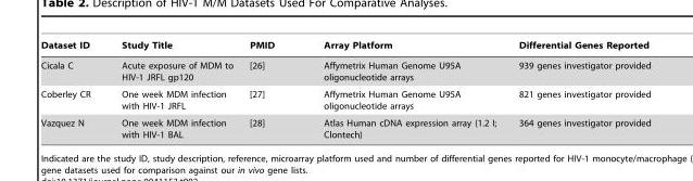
<table><thead><tr><td>Dataset ID</td><td>Study Title</td><td>PMID</td><td>Array Platform</td><td>Differential Genes Reported</td></tr></thead><tbody><tr><td>Cicala C</td><td>Acute exposure of MDM to HIV-1 JRFL gp120</td><td>[26]</td><td>Affymetrix Human Genome U95A oligonucleotide arrays</td><td>939 genes investigator provided</td></tr><tr><td>Coberley CR</td><td>One week MDM infection with HIV-1 JRFL</td><td>[27]</td><td>Affymetrix Human Genome U95A oligonucleotide arrays</td><td>821 genes investigator provided</td></tr><tr><td>Vazquez N</td><td>One week MDM infection with HIV-1 BAL</td><td>[28]</td><td>Atlas Human cDNA expression array (1.2 I; Clontech)</td><td>364 genes investigator provided</td></tr></tbody></table>